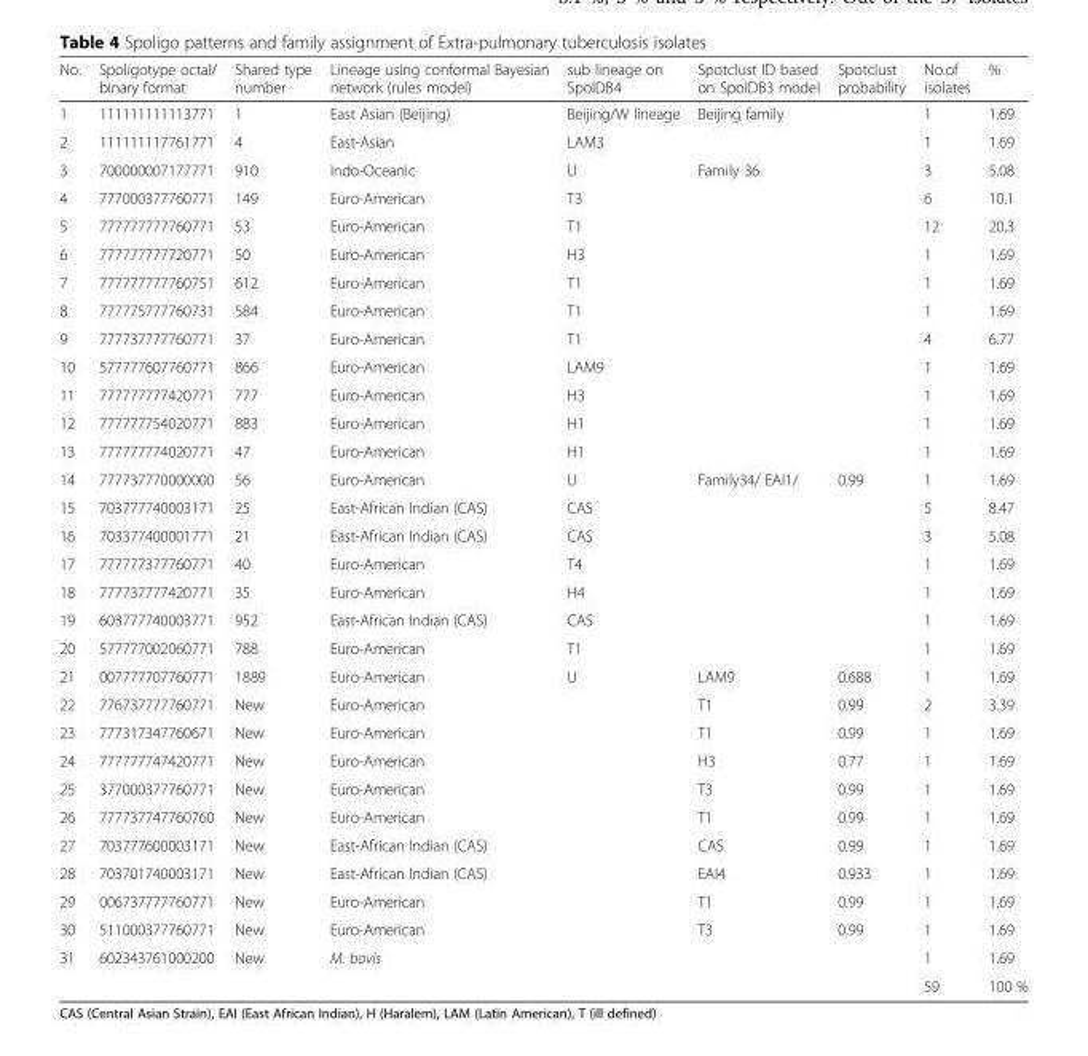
<table><thead><tr><td>No.</td><td>Spoligotype octal/ binary format</td><td>Shared type number</td><td>Lineage using conformal Bayesian network (rules model)</td><td>sub lineage on SpolDB4</td><td>Spotclust ID based on SpolDB3 model</td><td>Spotclust probability</td><td>No.of isolates</td><td>%</td></tr></thead><tbody><tr><td>1</td><td>111111111113771</td><td>1</td><td>East Asian (Beijing)</td><td>Beijing/W lineage</td><td>Beijing family</td><td></td><td>1</td><td>1.69</td></tr><tr><td>2</td><td>111111117761771</td><td>4</td><td>East-Asian</td><td>LAM3</td><td></td><td></td><td>1</td><td>1.69</td></tr><tr><td>3</td><td>700000007177771</td><td>910</td><td>Indo-Oceanic</td><td>U</td><td>Family 36</td><td></td><td>3</td><td>5.08</td></tr><tr><td>4</td><td>777000377760771</td><td>149</td><td>Euro-American</td><td>T3</td><td></td><td></td><td>6</td><td>10.1</td></tr><tr><td>5</td><td>777777777760771</td><td>53</td><td>Euro-American</td><td>T1</td><td></td><td></td><td>12</td><td>20.3</td></tr><tr><td>6</td><td>777777777720771</td><td>50</td><td>Euro-American</td><td>H3</td><td></td><td></td><td>1</td><td>1.69</td></tr><tr><td>7</td><td>777777777760751</td><td>612</td><td>Euro-American</td><td>T1</td><td></td><td></td><td>1</td><td>1.69</td></tr><tr><td>8</td><td>777775777760731</td><td>584</td><td>Euro-American</td><td>T1</td><td></td><td></td><td>1</td><td>1.69</td></tr><tr><td>9</td><td>777737777760771</td><td>37</td><td>Euro-American</td><td>T1</td><td></td><td></td><td>4</td><td>6.77</td></tr><tr><td>10</td><td>577777607760771</td><td>866</td><td>Euro-American</td><td>LAM9</td><td></td><td></td><td>1</td><td>1.69</td></tr><tr><td>11</td><td>777777777420771</td><td>777</td><td>Euro-American</td><td>H3</td><td></td><td></td><td>1</td><td>1.69</td></tr><tr><td>12</td><td>777777754020771</td><td>883</td><td>Euro-American</td><td>H1</td><td></td><td></td><td>1</td><td>1.69</td></tr><tr><td>13</td><td>777777774020771</td><td>47</td><td>Euro-American</td><td>H1</td><td></td><td></td><td>1</td><td>1.69</td></tr><tr><td>14</td><td>777737770000000</td><td>56</td><td>Euro-American</td><td>U</td><td>Family34/ EAI1/</td><td>0.99</td><td>1</td><td>1.69</td></tr><tr><td>15</td><td>703777740003171</td><td>25</td><td>East-African Indian (CAS)</td><td>CAS</td><td></td><td></td><td>5</td><td>8.47</td></tr><tr><td>16</td><td>703377400001771</td><td>21</td><td>East-African Indian (CAS)</td><td>CAS</td><td></td><td></td><td>3</td><td>5.08</td></tr><tr><td>17</td><td>777777377760771</td><td>40</td><td>Euro-American</td><td>T4</td><td></td><td></td><td>1</td><td>1.69</td></tr><tr><td>18</td><td>777737777420771</td><td>35</td><td>Euro-American</td><td>H4</td><td></td><td></td><td>1</td><td>1.69</td></tr><tr><td>19</td><td>603777740003771</td><td>952</td><td>East-African Indian (CAS)</td><td>CAS</td><td></td><td></td><td>1</td><td>1.69</td></tr><tr><td>20</td><td>577777002060771</td><td>788</td><td>Euro-American</td><td>T1</td><td></td><td></td><td>1</td><td>1.69</td></tr><tr><td>21</td><td>007777707760771</td><td>1889</td><td>Euro-American</td><td>U</td><td>LAM9</td><td>0.688</td><td>1</td><td>1.69</td></tr><tr><td>22</td><td>776737777760771</td><td>New</td><td>Euro-American</td><td></td><td>T1</td><td>0.99</td><td>2</td><td>3.39</td></tr><tr><td>23</td><td>777317347760671</td><td>New</td><td>Euro-American</td><td></td><td>T1</td><td>0.99</td><td>1</td><td>1.69</td></tr><tr><td>24</td><td>777777747420771</td><td>New</td><td>Euro-American</td><td></td><td>H3</td><td>0.77</td><td>1</td><td>1.69</td></tr><tr><td>25</td><td>377000377760771</td><td>New</td><td>Euro-American</td><td></td><td>T3</td><td>0.99</td><td>1</td><td>1.69</td></tr><tr><td>26</td><td>777737747760760</td><td>New</td><td>Euro-American</td><td></td><td>T1</td><td>0.99</td><td>1</td><td>1.69</td></tr><tr><td>27</td><td>703777600003171</td><td>New</td><td>East-African Indian (CAS)</td><td></td><td>CAS</td><td>0.99</td><td>1</td><td>1.69</td></tr><tr><td>28</td><td>703701740003171</td><td>New</td><td>East-African Indian (CAS)</td><td></td><td>EAI4</td><td>0.933</td><td>1</td><td>1.69</td></tr><tr><td>29</td><td>006737777760771</td><td>New</td><td>Euro-American</td><td></td><td>T1</td><td>0.99</td><td>1</td><td>1.69</td></tr><tr><td>30</td><td>511000377760771</td><td>New</td><td>Euro-American</td><td></td><td>T3</td><td>0.99</td><td>1</td><td>1.69</td></tr><tr><td rowspan="2">31</td><td>602343761000200</td><td>New</td><td>M. bovis</td><td></td><td></td><td></td><td>1</td><td>1.69</td></tr><tr><td></td><td></td><td></td><td></td><td></td><td></td><td>59</td><td>100 %</td></tr></tbody></table>